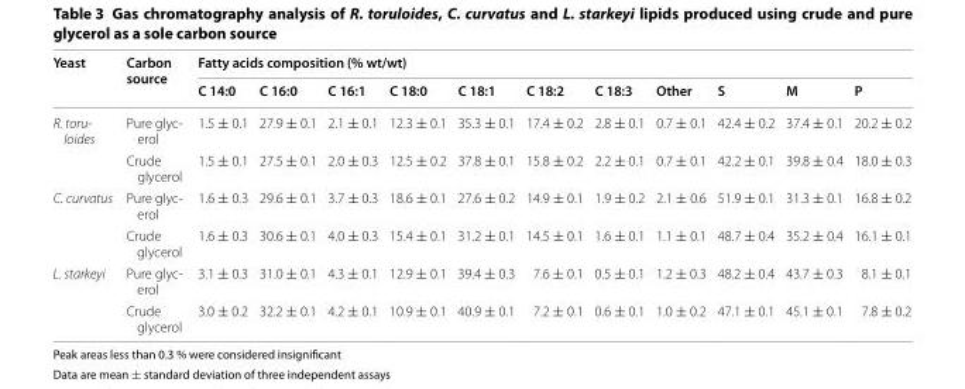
<table><thead><tr><td rowspan="2">Yeast</td><td rowspan="2">Carbon source</td><td colspan="11">Fatty acids composition (% wt/wt)</td></tr><tr><td>C 14:0</td><td>C 16:0</td><td>C 16:1</td><td>C 18:0</td><td>C 18:1</td><td>C 18:2</td><td>C 18:3</td><td>Other</td><td>S</td><td>M</td><td>P</td></tr></thead><tbody><tr><td rowspan="2">R. toru- loides</td><td>Pure glyc- erol</td><td>1.5 ± 0.1</td><td>27.9 ± 0.1</td><td>2.1 ± 0.1</td><td>12.3 ± 0.1</td><td>35.3 ± 0.1</td><td>17.4 ± 0.2</td><td>2.8 ± 0.1</td><td>0.7 ± 0.1</td><td>42.4 ± 0.2</td><td>37.4 ± 0.1</td><td>20.2 ± 0.2</td></tr><tr><td>Crude glycerol</td><td>1.5 ± 0.1</td><td>27.5 ± 0.1</td><td>2.0 ± 0.3</td><td>12.5 ± 0.2</td><td>37.8 ± 0.1</td><td>15.8 ± 0.2</td><td>2.2 ± 0.1</td><td>0.7 ± 0.1</td><td>42.2 ± 0.1</td><td>39.8 ± 0.4</td><td>18.0 ± 0.3</td></tr><tr><td rowspan="2">C. curvatus</td><td>Pure glyc- erol</td><td>1.6 ± 0.3</td><td>29.6 ± 0.1</td><td>3.7 ± 0.3</td><td>18.6 ± 0.1</td><td>27.6 ± 0.2</td><td>14.9 ± 0.1</td><td>1.9 ± 0.2</td><td>2.1 ± 0.6</td><td>51.9 ± 0.1</td><td>31.3 ± 0.1</td><td>16.8 ± 0.2</td></tr><tr><td>Crude glycerol</td><td>1.6 ± 0.3</td><td>30.6 ± 0.1</td><td>4.0 ± 0.3</td><td>15.4 ± 0.1</td><td>31.2 ± 0.1</td><td>14.5 ± 0.1</td><td>1.6 ± 0.1</td><td>1.1 ± 0.1</td><td>48.7 ± 0.4</td><td>35.2 ± 0.4</td><td>16.1 ± 0.1</td></tr><tr><td rowspan="2">L. starkeyi</td><td>Pure glyc- erol</td><td>3.1 ± 0.3</td><td>31.0 ± 0.1</td><td>4.3 ± 0.1</td><td>12.9 ± 0.1</td><td>39.4 ± 0.3</td><td>7.6 ± 0.1</td><td>0.5 ± 0.1</td><td>1.2 ± 0.3</td><td>48.2 ± 0.4</td><td>43.7 ± 0.3</td><td>8.1 ± 0.1</td></tr><tr><td>Crude glycerol</td><td>3.0 ± 0.2</td><td>32.2 ± 0.1</td><td>4.2 ± 0.1</td><td>10.9 ± 0.1</td><td>40.9 ± 0.1</td><td>7.2 ± 0.1</td><td>0.6 ± 0.1</td><td>1.0 ± 0.2</td><td>47.1 ± 0.1</td><td>45.1 ± 0.1</td><td>7.8 ± 0.2</td></tr></tbody></table>